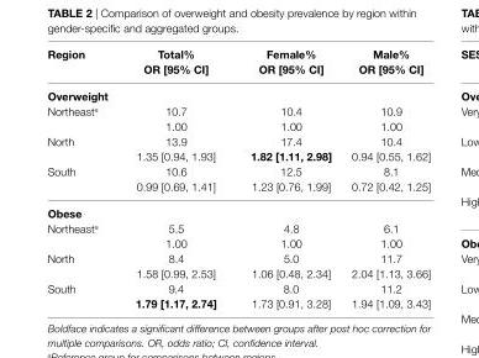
<table><thead><tr><td>region</td><td>Total% Or [95% ci]</td><td>Female% Or [95% ci]</td><td>Male% Or [95% ci]</td></tr></thead><tbody><tr><td colspan="4">Overweight</td></tr><tr><td>Northeast<sup>a</sup></td><td>10.7 1.00</td><td>10.4 1.00</td><td>10.9 1.00</td></tr><tr><td>North</td><td>13.9 1.35 [0.94, 1.93]</td><td>17.4 1.82 [1.11, 2.98]</td><td>10.4 0.94 [0.55, 1.62]</td></tr><tr><td>South</td><td>10.6 0.99 [0.69, 1.41]</td><td>12.5 1.23 [0.76, 1.99]</td><td>8.1 0.72 [0.42, 1.25]</td></tr><tr><td colspan="4">Obese</td></tr><tr><td>Northeast<sup>a</sup></td><td>5.5 1.00</td><td>4.8 1.00</td><td>6.1 1.00</td></tr><tr><td>North</td><td>8.4 1.58 [0.99, 2.53]</td><td>5.0 1.06 [0.48, 2.34]</td><td>11.7 2.04 [1.13, 3.66]</td></tr><tr><td>South</td><td>9.4 1.79 [1.17, 2.74]</td><td>8.0 1.73 [0.91, 3.28]</td><td>11.2 1.94 [1.09, 3.43]</td></tr></tbody></table>